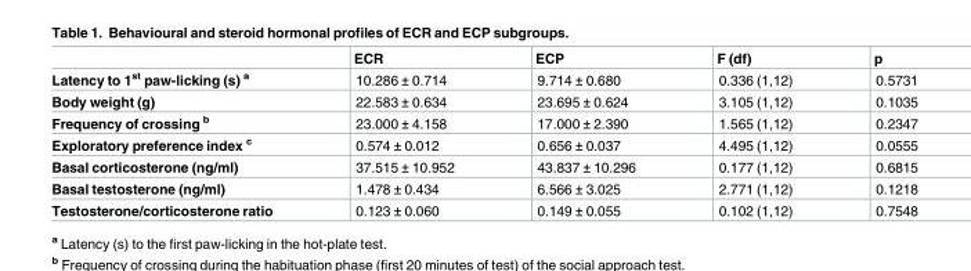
<table><thead><tr><td></td><td>ECR</td><td>ECP</td><td>F (df)</td><td>p</td></tr></thead><tbody><tr><td>Latency to 1<sup>st</sup> paw-licking (s) <sup>a</sup></td><td>10.286 ± 0.714</td><td>9.714 ± 0.680</td><td>0.336 (1,12)</td><td>0.5731</td></tr><tr><td>Body weight (g)</td><td>22.583 ± 0.634</td><td>23.695 ± 0.624</td><td>3.105 (1,12)</td><td>0.1035</td></tr><tr><td>Frequency of crossing <sup>b</sup></td><td>23.000 ± 4.158</td><td>17.000 ± 2.390</td><td>1.565 (1,12)</td><td>0.2347</td></tr><tr><td>Exploratory preference index <sup>c</sup></td><td>0.574 ± 0.012</td><td>0.656 ± 0.037</td><td>4.495 (1,12)</td><td>0.0555</td></tr><tr><td>Basal corticosterone (ng/ml)</td><td>37.515 ± 10.952</td><td>43.837 ± 10.296</td><td>0.177 (1,12)</td><td>0.6815</td></tr><tr><td>Basal testosterone (ng/ml)</td><td>1.478 ± 0.434</td><td>6.566 ± 3.025</td><td>2.771 (1,12)</td><td>0.1218</td></tr><tr><td>Testosterone/corticosterone ratio</td><td>0.123 ± 0.060</td><td>0.149 ± 0.055</td><td>0.102 (1,12)</td><td>0.7548</td></tr></tbody></table>